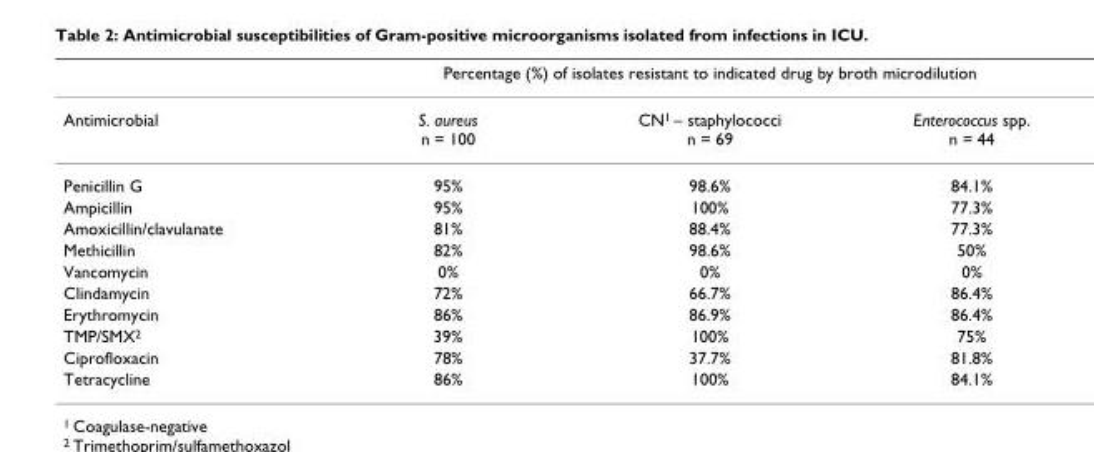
<table><thead><tr><td rowspan="2">Antimicrobial</td><td colspan="3">Percentage (%) of isolates resistant to indicated drug by broth microdilution</td></tr><tr><td>S. aureus n = 100</td><td>CN<sup>1</sup> – staphylococci n = 69</td><td>Enterococcus spp. n = 44</td></tr></thead><tbody><tr><td>Penicillin G</td><td>95%</td><td>98.6%</td><td>84.1%</td></tr><tr><td>Ampicillin</td><td>95%</td><td>100%</td><td>77.3%</td></tr><tr><td>Amoxicillin/clavulanate</td><td>81%</td><td>88.4%</td><td>77.3%</td></tr><tr><td>Methicillin</td><td>82%</td><td>98.6%</td><td>50%</td></tr><tr><td>Vancomycin</td><td>0%</td><td>0%</td><td>0%</td></tr><tr><td>Clindamycin</td><td>72%</td><td>66.7%</td><td>86.4%</td></tr><tr><td>Erythromycin</td><td>86%</td><td>86.9%</td><td>86.4%</td></tr><tr><td>TMP/SMX<sup>2</sup></td><td>39%</td><td>100%</td><td>75%</td></tr><tr><td>Ciprofloxacin</td><td>78%</td><td>37.7%</td><td>81.8%</td></tr><tr><td>Tetracycline</td><td>86%</td><td>100%</td><td>84.1%</td></tr></tbody></table>